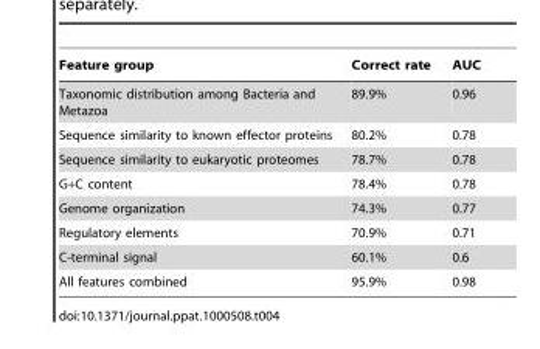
<table><thead><tr><td>Feature group</td><td>Correct rate</td><td>AUC</td></tr></thead><tbody><tr><td>Taxonomic distribution among Bacteria and Metazoa</td><td>89.9%</td><td>0.96</td></tr><tr><td>Sequence similarity to known effector proteins</td><td>80.2%</td><td>0.78</td></tr><tr><td>Sequence similarity to eukaryotic proteomes</td><td>78.7%</td><td>0.78</td></tr><tr><td>G+C content</td><td>78.4%</td><td>0.78</td></tr><tr><td>Genome organization</td><td>74.3%</td><td>0.77</td></tr><tr><td>Regulatory elements</td><td>70.9%</td><td>0.71</td></tr><tr><td>C-terminal signal</td><td>60.1%</td><td>0.6</td></tr><tr><td>All features combined</td><td>95.9%</td><td>0.98</td></tr></tbody></table>